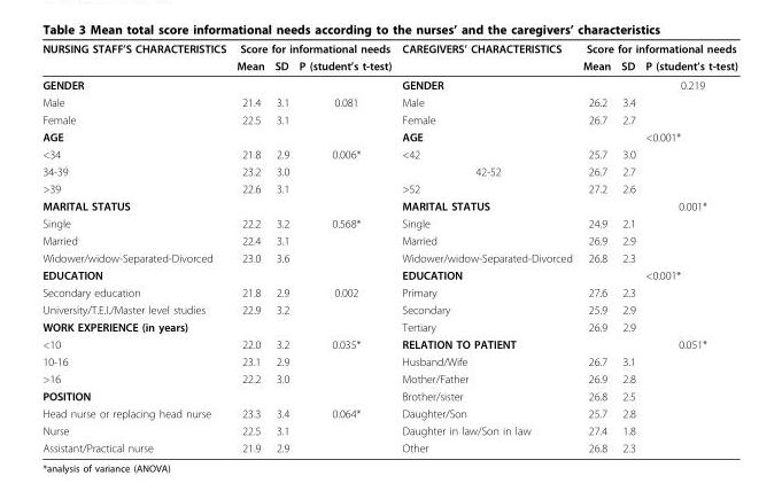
<table><thead><tr><td rowspan="2">NURSING STAFF’S CHARACTERISTICS</td><td colspan="3">Score for informational needs</td><td rowspan="2">CAREGIVERS’ CHARACTERISTICS</td><td colspan="3">Score for informational needs</td></tr><tr><td>Mean</td><td>SD</td><td>P (student’s t-test)</td><td>Mean</td><td>SD</td><td>P (student’s t-test)</td></tr></thead><tbody><tr><td>GENDER</td><td></td><td></td><td></td><td>GENDER</td><td></td><td></td><td>0.219</td></tr><tr><td>Male</td><td>21.4</td><td>3.1</td><td>0.081</td><td>Male</td><td>26.2</td><td>3.4</td><td></td></tr><tr><td>Female</td><td>22.5</td><td>3.1</td><td></td><td>Female</td><td>26.7</td><td>2.7</td><td></td></tr><tr><td>AGE</td><td></td><td></td><td></td><td>AGE</td><td></td><td></td><td>&lt;0.001*</td></tr><tr><td>&lt;34</td><td>21.8</td><td>2.9</td><td>0.006*</td><td>&lt;42</td><td>25.7</td><td>3.0</td><td></td></tr><tr><td>34-39</td><td>23.2</td><td>3.0</td><td></td><td>42-52</td><td>26.7</td><td>2.7</td><td></td></tr><tr><td>&gt;39</td><td>22.6</td><td>3.1</td><td></td><td>&gt;52</td><td>27.2</td><td>2.6</td><td></td></tr><tr><td>MARITAL STATUS</td><td></td><td></td><td></td><td>MARITAL STATUS</td><td></td><td></td><td>0.001*</td></tr><tr><td>Single</td><td>22.2</td><td>3.2</td><td>0.568*</td><td>Single</td><td>24.9</td><td>2.1</td><td></td></tr><tr><td>Married</td><td>22.4</td><td>3.1</td><td></td><td>Married</td><td>26.9</td><td>2.9</td><td></td></tr><tr><td>Widower/widow-Separated-Divorced</td><td>23.0</td><td>3.6</td><td></td><td>Widower/widow-Separated-Divorced</td><td>26.8</td><td>2.3</td><td></td></tr><tr><td>EDUCATION</td><td></td><td></td><td></td><td>EDUCATION</td><td></td><td></td><td>&lt;0.001*</td></tr><tr><td>Secondary education</td><td>21.8</td><td>2.9</td><td>0.002</td><td>Primary</td><td>27.6</td><td>2.3</td><td></td></tr><tr><td>University/T.E.I./Master level studies</td><td>22.9</td><td>3.2</td><td></td><td>Secondary</td><td>25.9</td><td>2.9</td><td></td></tr><tr><td>WORK EXPERIENCE (in years)</td><td></td><td></td><td></td><td>Tertiary</td><td>26.9</td><td>2.9</td><td></td></tr><tr><td>&lt;10</td><td>22.0</td><td>3.2</td><td>0.035*</td><td>RELATION TO PATIENT</td><td></td><td></td><td>0.051*</td></tr><tr><td>10-16</td><td>23.1</td><td>2.9</td><td></td><td>Husband/Wife</td><td>26.7</td><td>3.1</td><td></td></tr><tr><td>&gt;16</td><td>22.2</td><td>3.0</td><td></td><td>Mother/Father</td><td>26.9</td><td>2.8</td><td></td></tr><tr><td>POSITION</td><td></td><td></td><td></td><td>Brother/sister</td><td>26.8</td><td>2.5</td><td></td></tr><tr><td>Head nurse or replacing head nurse</td><td>23.3</td><td>3.4</td><td>0.064*</td><td>Daughter/Son</td><td>25.7</td><td>2.8</td><td></td></tr><tr><td>Nurse</td><td>22.5</td><td>3.1</td><td></td><td>Daughter in law/Son in law</td><td>27.4</td><td>1.8</td><td></td></tr><tr><td>Assistant/Practical nurse</td><td>21.9</td><td>2.9</td><td></td><td>Other</td><td>26.8</td><td>2.3</td><td></td></tr></tbody></table>